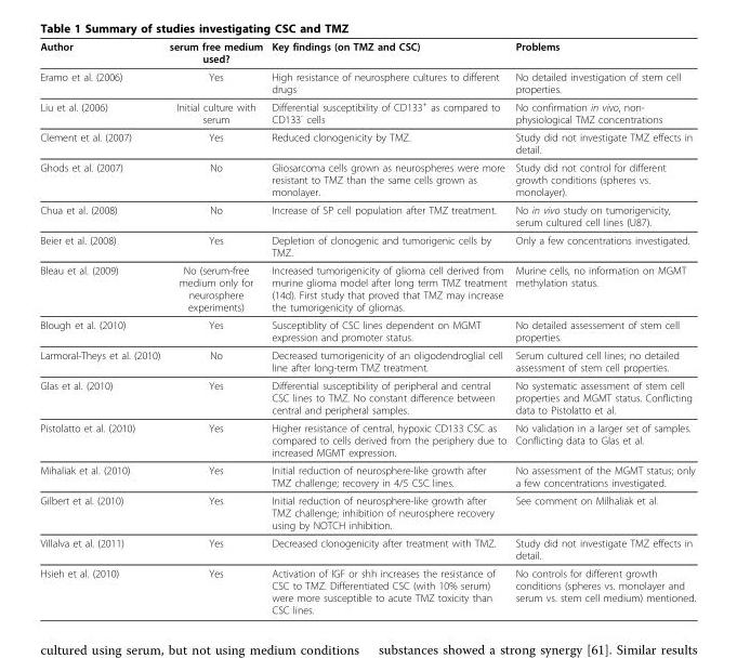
<table><thead><tr><td>Author</td><td>serum free medium used?</td><td>Key findings (on TMZ and CSC)</td><td>Problems</td></tr></thead><tbody><tr><td>Eramo et al. (2006)</td><td>Yes</td><td>High resistance of neurosphere cultures to different drugs</td><td>No detailed investigation of stem cell properties.</td></tr><tr><td>Liu et al. (2006)</td><td>Initial culture with serum</td><td>Differential susceptibility of CD133<sup>+</sup> as compared to CD133<sup>-</sup> cells</td><td>No confirmation in vivo, non- physiological TMZ concentrations</td></tr><tr><td>Clement et al. (2007)</td><td>Yes</td><td>Reduced clonogenicity by TMZ.</td><td>Study did not investigate TMZ effects in detail.</td></tr><tr><td>Ghods et al. (2007)</td><td>No</td><td>Gliosarcoma cells grown as neurospheres were more resistant to TMZ than the same cells grown as monolayer.</td><td>Study did not control for different growth conditions (spheres vs. monolayer).</td></tr><tr><td>Chua et al. (2008)</td><td>No</td><td>Increase of SP cell population after TMZ treatment.</td><td>No in vivo study on tumorigenicity, serum cultured cell lines (U87).</td></tr><tr><td>Beier et al. (2008)</td><td>Yes</td><td>Depletion of clonogenic and tumorigenic cells by TMZ.</td><td>Only a few concentrations investigated.</td></tr><tr><td>Bleau et al. (2009)</td><td>No (serum-free medium only for neurosphere experiments)</td><td>Increased tumorigenicity of glioma cell derived from murine glioma model after long term TMZ treatment (14d). First study that proved that TMZ may increase the tumorigenicity of gliomas.</td><td>Murine cells, no information on MGMT methylation status.</td></tr><tr><td>Blough et al. (2010)</td><td>Yes</td><td>Susceptiblity of CSC lines dependent on MGMT expression and promoter status.</td><td>No detailed assessement of stem cell properties.</td></tr><tr><td>Larmoral-Theys et al. (2010)</td><td>No</td><td>Decreased tumorigenicity of an oligodendroglial cell line after long-term TMZ treatment.</td><td>Serum cultured cell lines; no detailed assessment of stem cell properties.</td></tr><tr><td>Glas et al. (2010)</td><td>Yes</td><td>Differential susceptibility of peripheral and central CSC lines to TMZ. No constant difference between central and peripheral samples.</td><td>No systematic assessment of stem cell properties and MGMT status. Conflicting data to Pistolatto et al.</td></tr><tr><td>Pistolatto et al. (2010)</td><td>Yes</td><td>Higher resistance of central, hypoxic CD133 CSC as compared to cells derived from the periphery due to increased MGMT expression.</td><td>No validation in a larger set of samples. Conflicting data to Glas et al.</td></tr><tr><td>Mihaliak et al. (2010)</td><td>Yes</td><td>Initial reduction of neurosphere-like growth after TMZ challenge; recovery in 4/5 CSC lines.</td><td>No assessment of the MGMT status; only a few concentrations investigated.</td></tr><tr><td>Gilbert et al. (2010)</td><td>Yes</td><td>Initial reduction of neurosphere-like growth after TMZ challenge; inhibition of neurosphere recovery using by NOTCH inhibition.</td><td>See comment on Milhaliak et al.</td></tr><tr><td>Villalva et al. (2011)</td><td>Yes</td><td>Decreased clonogenicity after treatment with TMZ.</td><td>Study did not investigate TMZ effects in detail.</td></tr><tr><td>Hsieh et al. (2010)</td><td>Yes</td><td>Activation of IGF or shh increases the resistance of CSC to TMZ. Differentiated CSC (with 10% serum) were more susceptible to acute TMZ toxicity than CSC lines.</td><td>No controls for different growth conditions (spheres vs. monolayer and serum vs. stem cell medium) mentioned.</td></tr></tbody></table>